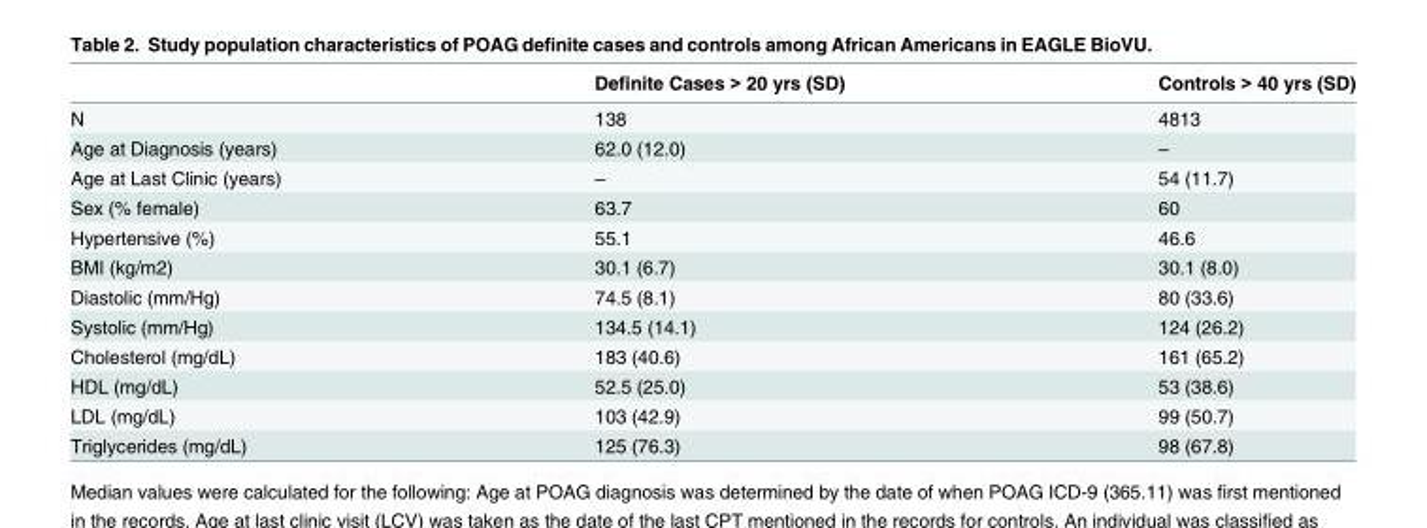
<table><thead><tr><td></td><td>Definite Cases &gt; 20 yrs (SD)</td><td>Controls &gt; 40 yrs (SD)</td></tr></thead><tbody><tr><td>N</td><td>138</td><td>4813</td></tr><tr><td>Age at Diagnosis (years)</td><td>62.0 (12.0)</td><td>–</td></tr><tr><td>Age at Last Clinic (years)</td><td>–</td><td>54 (11.7)</td></tr><tr><td>Sex (% female)</td><td>63.7</td><td>60</td></tr><tr><td>Hypertensive (%)</td><td>55.1</td><td>46.6</td></tr><tr><td>BMI (kg/m2)</td><td>30.1 (6.7)</td><td>30.1 (8.0)</td></tr><tr><td>Diastolic (mm/Hg)</td><td>74.5 (8.1)</td><td>80 (33.6)</td></tr><tr><td>Systolic (mm/Hg)</td><td>134.5 (14.1)</td><td>124 (26.2)</td></tr><tr><td>Cholesterol (mg/dL)</td><td>183 (40.6)</td><td>161 (65.2)</td></tr><tr><td>HDL (mg/dL)</td><td>52.5 (25.0)</td><td>53 (38.6)</td></tr><tr><td>LDL (mg/dL)</td><td>103 (42.9)</td><td>99 (50.7)</td></tr><tr><td>Triglycerides (mg/dL)</td><td>125 (76.3)</td><td>98 (67.8)</td></tr></tbody></table>